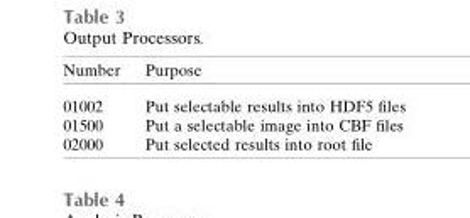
<table><thead><tr><td>Number</td><td>Purpose</td></tr></thead><tbody><tr><td>01002</td><td>Put selectable results into HDF5 files</td></tr><tr><td>01500</td><td>Put a selectable image into CBF files</td></tr><tr><td>02000</td><td>Put selected results into root file</td></tr></tbody></table>